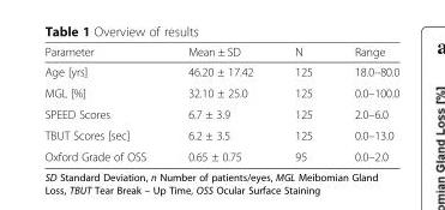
<table><thead><tr><td>Parameter</td><td>Mean ± SD</td><td>N</td><td>Range</td></tr></thead><tbody><tr><td>Age [yrs]</td><td>46.20 ± 17.42</td><td>125</td><td>18.0–80.0</td></tr><tr><td>MGL [%]</td><td>32.10 ± 25.0</td><td>125</td><td>0.0–100.0</td></tr><tr><td>SPEED Scores</td><td>6.7 ± 3.9</td><td>125</td><td>2.0–6.0</td></tr><tr><td>TBUT Scores [sec]</td><td>6.2 ± 3.5</td><td>125</td><td>0.0–13.0</td></tr><tr><td>Oxford Grade of OSS</td><td>0.65 ± 0.75</td><td>95</td><td>0.0–2.0</td></tr></tbody></table>